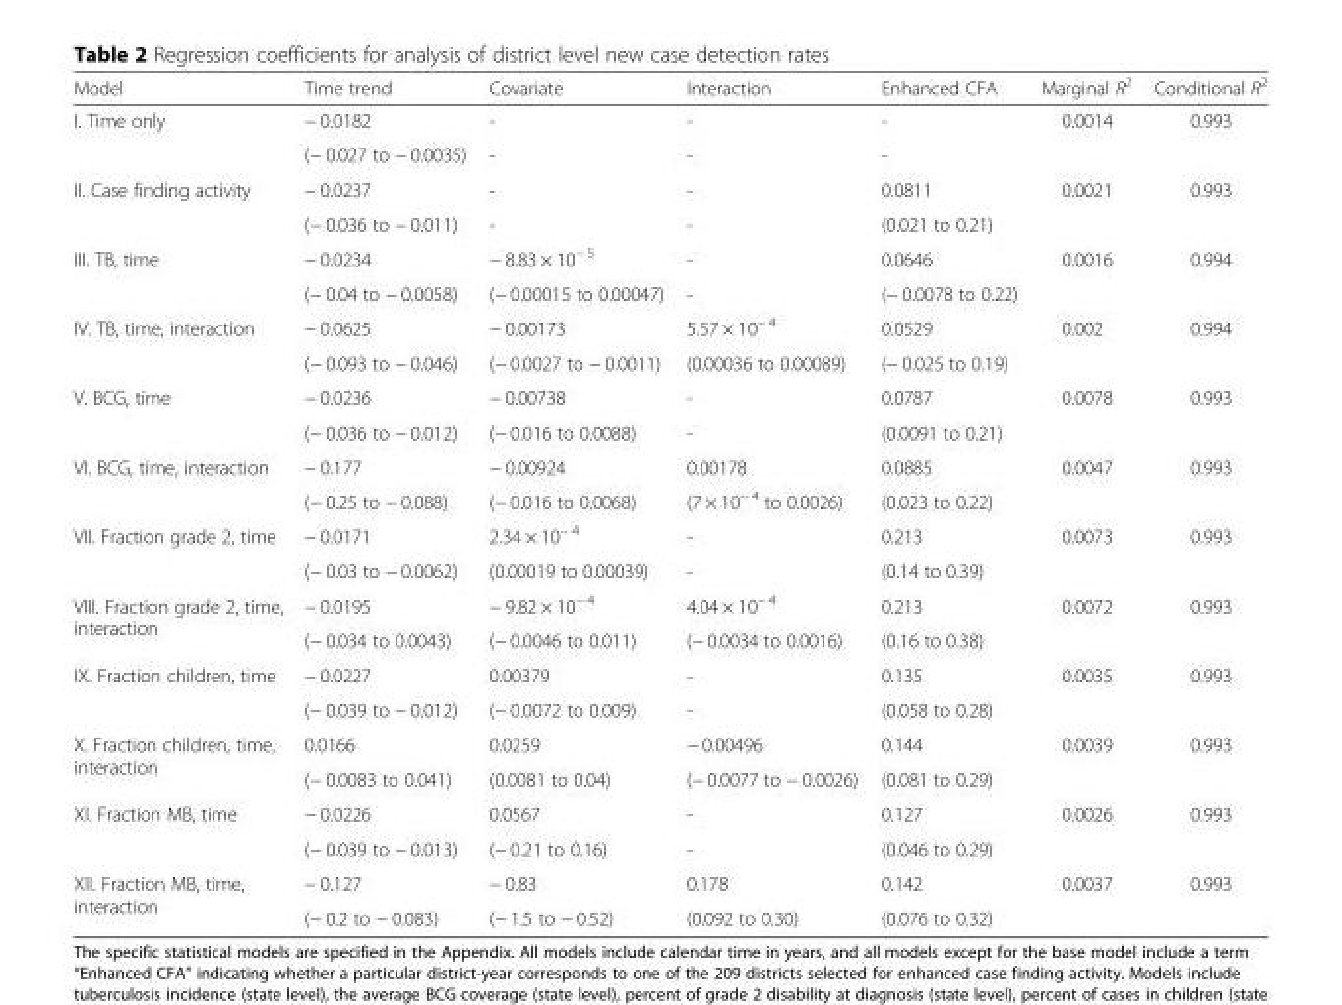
<table><thead><tr><td>Model</td><td>Time trend</td><td>Covariate</td><td>Interaction</td><td>Enhanced CFA</td><td>Marginal R<sup>2</sup></td><td>Conditional R<sup>2</sup></td></tr></thead><tbody><tr><td rowspan="2">I. Time only</td><td>− 0.0182</td><td>-</td><td>-</td><td>-</td><td>0.0014</td><td>0.993</td></tr><tr><td>(− 0.027 to − 0.0035)</td><td>-</td><td>-</td><td>-</td><td></td><td></td></tr><tr><td rowspan="2">II. Case finding activity</td><td>− 0.0237</td><td>-</td><td>-</td><td>0.0811</td><td>0.0021</td><td>0.993</td></tr><tr><td>(− 0.036 to − 0.011)</td><td>-</td><td>-</td><td>(0.021 to 0.21)</td><td></td><td></td></tr><tr><td rowspan="2">III. TB, time</td><td>− 0.0234</td><td>− 8.83 × 10<sup>− 5</sup></td><td>-</td><td>0.0646</td><td>0.0016</td><td>0.994</td></tr><tr><td>(− 0.04 to − 0.0058)</td><td>(− 0.00015 to 0.00047)</td><td>-</td><td>(− 0.0078 to 0.22)</td><td></td><td></td></tr><tr><td rowspan="2">IV. TB, time, interaction</td><td>− 0.0625</td><td>− 0.00173</td><td>5.57 × 10<sup>− 4</sup></td><td>0.0529</td><td>0.002</td><td>0.994</td></tr><tr><td>(− 0.093 to − 0.046)</td><td>(− 0.0027 to − 0.0011)</td><td>(0.00036 to 0.00089)</td><td>(− 0.025 to 0.19)</td><td></td><td></td></tr><tr><td rowspan="2">V. BCG, time</td><td>− 0.0236</td><td>− 0.00738</td><td>-</td><td>0.0787</td><td>0.0078</td><td>0.993</td></tr><tr><td>(− 0.036 to − 0.012)</td><td>(− 0.016 to 0.0088)</td><td>-</td><td>(0.0091 to 0.21)</td><td></td><td></td></tr><tr><td rowspan="2">VI. BCG, time, interaction</td><td>− 0.177</td><td>− 0.00924</td><td>0.00178</td><td>0.0885</td><td>0.0047</td><td>0.993</td></tr><tr><td>(− 0.25 to − 0.088)</td><td>(− 0.016 to 0.0068)</td><td>(7 × 10<sup>− 4</sup> to 0.0026)</td><td>(0.023 to 0.22)</td><td></td><td></td></tr><tr><td rowspan="2">VII. Fraction grade 2, time</td><td>− 0.0171</td><td>2.34 × 10<sup>− 4</sup></td><td>-</td><td>0.213</td><td>0.0073</td><td>0.993</td></tr><tr><td>(− 0.03 to − 0.0062)</td><td>(0.00019 to 0.00039)</td><td>-</td><td>(0.14 to 0.39)</td><td></td><td></td></tr><tr><td rowspan="2">VIII. Fraction grade 2, time, interaction</td><td>− 0.0195</td><td>− 9.82 × 10<sup>− 4</sup></td><td>4.04 × 10<sup>− 4</sup></td><td>0.213</td><td>0.0072</td><td>0.993</td></tr><tr><td>(− 0.034 to 0.0043)</td><td>(− 0.0046 to 0.011)</td><td>(− 0.0034 to 0.0016)</td><td>(0.16 to 0.38)</td><td></td><td></td></tr><tr><td rowspan="2">IX. Fraction children, time</td><td>− 0.0227</td><td>0.00379</td><td>-</td><td>0.135</td><td>0.0035</td><td>0.993</td></tr><tr><td>(− 0.039 to − 0.012)</td><td>(− 0.0072 to 0.009)</td><td>-</td><td>(0.058 to 0.28)</td><td></td><td></td></tr><tr><td rowspan="2">X. Fraction children, time, interaction</td><td>0.0166</td><td>0.0259</td><td>− 0.00496</td><td>0.144</td><td>0.0039</td><td>0.993</td></tr><tr><td>(− 0.0083 to 0.041)</td><td>(0.0081 to 0.04)</td><td>(− 0.0077 to − 0.0026)</td><td>(0.081 to 0.29)</td><td></td><td></td></tr><tr><td rowspan="2">XI. Fraction MB, time</td><td>− 0.0226</td><td>0.0567</td><td>-</td><td>0.127</td><td>0.0026</td><td>0.993</td></tr><tr><td>(− 0.039 to − 0.013)</td><td>(− 0.21 to 0.16)</td><td>-</td><td>(0.046 to 0.29)</td><td></td><td></td></tr><tr><td rowspan="2">XII. Fraction MB, time, interaction</td><td>− 0.127</td><td>− 0.83</td><td>0.178</td><td>0.142</td><td>0.0037</td><td>0.993</td></tr><tr><td>(− 0.2 to − 0.083)</td><td>(− 1.5 to − 0.52)</td><td>(0.092 to 0.30)</td><td>(0.076 to 0.32)</td><td colspan="2"></td></tr></tbody></table>